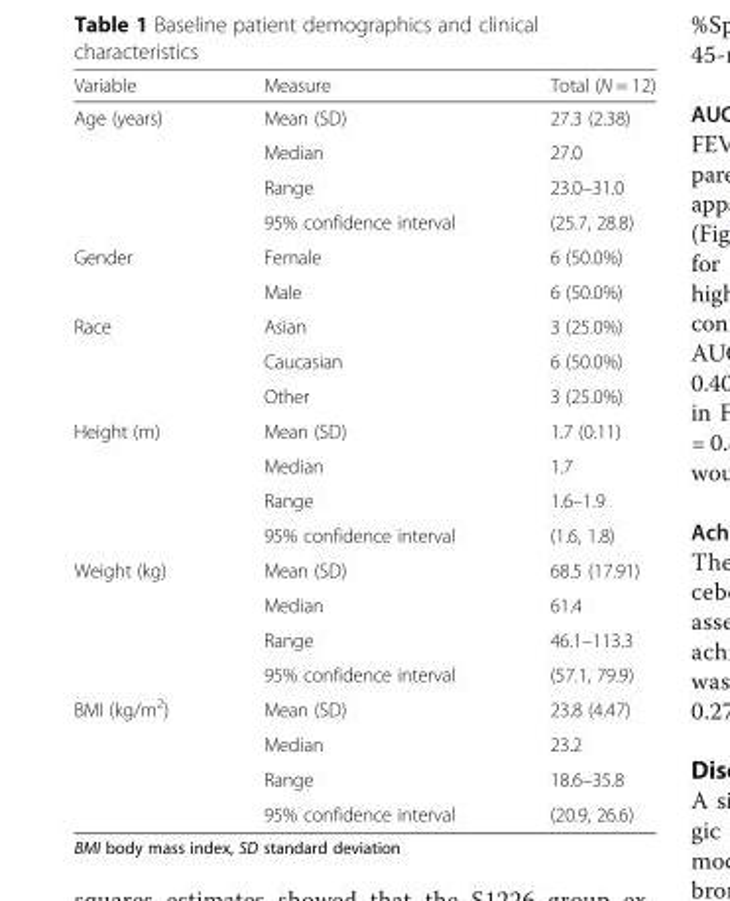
<table><thead><tr><td>Variable</td><td>Measure</td><td>Total (N = 12)</td></tr></thead><tbody><tr><td rowspan="4">Age (years)</td><td>Mean (SD)</td><td>27.3 (2.38)</td></tr><tr><td>Median</td><td>27.0</td></tr><tr><td>Range</td><td>23.0–31.0</td></tr><tr><td>95% confidence interval</td><td>(25.7, 28.8)</td></tr><tr><td rowspan="2">Gender</td><td>Female</td><td>6 (50.0%)</td></tr><tr><td>Male</td><td>6 (50.0%)</td></tr><tr><td rowspan="3">Race</td><td>Asian</td><td>3 (25.0%)</td></tr><tr><td>Caucasian</td><td>6 (50.0%)</td></tr><tr><td>Other</td><td>3 (25.0%)</td></tr><tr><td rowspan="4">Height (m)</td><td>Mean (SD)</td><td>1.7 (0.11)</td></tr><tr><td>Median</td><td>1.7</td></tr><tr><td>Range</td><td>1.6–1.9</td></tr><tr><td>95% confidence interval</td><td>(1.6, 1.8)</td></tr><tr><td rowspan="4">Weight (kg)</td><td>Mean (SD)</td><td>68.5 (17.91)</td></tr><tr><td>Median</td><td>61.4</td></tr><tr><td>Range</td><td>46.1–113.3</td></tr><tr><td>95% confidence interval</td><td>(57.1, 79.9)</td></tr><tr><td rowspan="4">BMI (kg/m<sup>2</sup>)</td><td>Mean (SD)</td><td>23.8 (4.47)</td></tr><tr><td>Median</td><td>23.2</td></tr><tr><td>Range</td><td>18.6–35.8</td></tr><tr><td>95% confidence interval</td><td>(20.9, 26.6)</td></tr></tbody></table>